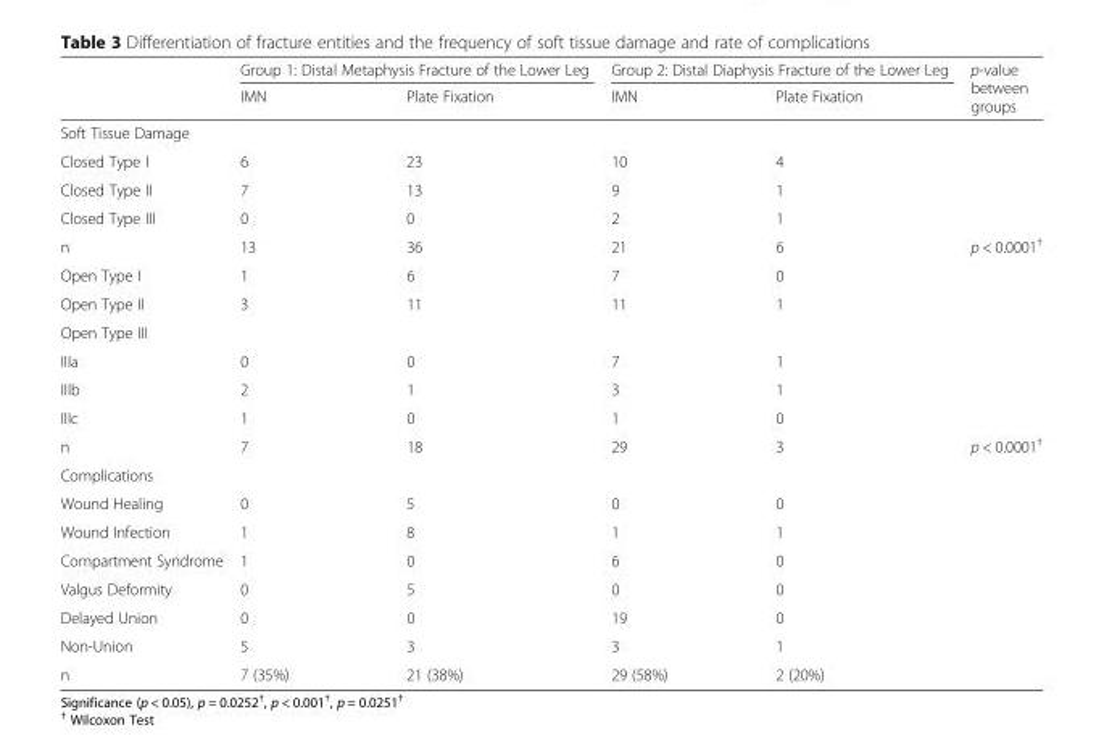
<table><thead><tr><td rowspan="2"></td><td colspan="2">Group 1: Distal Metaphysis Fracture of the Lower Leg</td><td colspan="2">Group 2: Distal Diaphysis Fracture of the Lower Leg</td><td rowspan="2">p-value between groups</td></tr><tr><td>IMN</td><td>Plate Fixation</td><td>IMN</td><td>Plate Fixation</td></tr></thead><tbody><tr><td colspan="6">Soft Tissue Damage</td></tr><tr><td>Closed Type I</td><td>6</td><td>23</td><td>10</td><td>4</td><td></td></tr><tr><td>Closed Type II</td><td>7</td><td>13</td><td>9</td><td>1</td><td></td></tr><tr><td>Closed Type III</td><td>0</td><td>0</td><td>2</td><td>1</td><td></td></tr><tr><td>n</td><td>13</td><td>36</td><td>21</td><td>6</td><td>p &lt; 0.0001<sup>†</sup></td></tr><tr><td>Open Type I</td><td>1</td><td>6</td><td>7</td><td>0</td><td></td></tr><tr><td>Open Type II</td><td>3</td><td>11</td><td>11</td><td>1</td><td></td></tr><tr><td colspan="6">Open Type III</td></tr><tr><td>IIIa</td><td>0</td><td>0</td><td>7</td><td>1</td><td></td></tr><tr><td>IIIb</td><td>2</td><td>1</td><td>3</td><td>1</td><td></td></tr><tr><td>IIIc</td><td>1</td><td>0</td><td>1</td><td>0</td><td></td></tr><tr><td>n</td><td>7</td><td>18</td><td>29</td><td>3</td><td>p &lt; 0.0001<sup>†</sup></td></tr><tr><td colspan="6">Complications</td></tr><tr><td>Wound Healing</td><td>0</td><td>5</td><td>0</td><td>0</td><td></td></tr><tr><td>Wound Infection</td><td>1</td><td>8</td><td>1</td><td>1</td><td></td></tr><tr><td>Compartment Syndrome</td><td>1</td><td>0</td><td>6</td><td>0</td><td></td></tr><tr><td>Valgus Deformity</td><td>0</td><td>5</td><td>0</td><td>0</td><td></td></tr><tr><td>Delayed Union</td><td>0</td><td>0</td><td>19</td><td>0</td><td></td></tr><tr><td>Non-Union</td><td>5</td><td>3</td><td>3</td><td>1</td><td></td></tr><tr><td>n</td><td>7 (35%)</td><td>21 (38%)</td><td>29 (58%)</td><td>2 (20%)</td><td></td></tr></tbody></table>